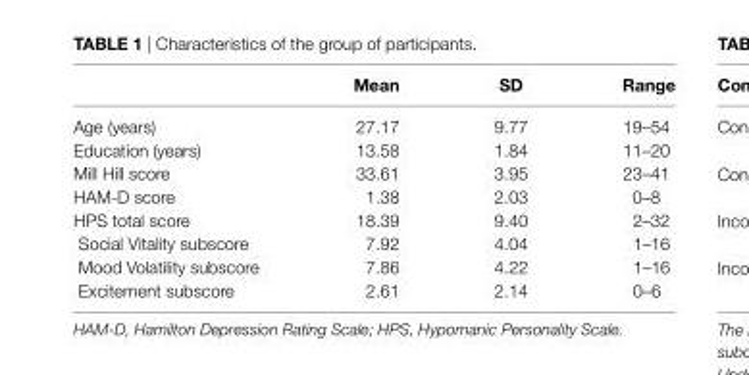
<table><thead><tr><td></td><td>Mean</td><td>sD</td><td>range</td></tr></thead><tbody><tr><td>Age (years)</td><td>27.17</td><td>9.77</td><td>19–54</td></tr><tr><td>Education (years)</td><td>13.58</td><td>1.84</td><td>11–20</td></tr><tr><td>Mill Hill score</td><td>33.61</td><td>3.95</td><td>23–41</td></tr><tr><td>HAM-D score</td><td>1.38</td><td>2.03</td><td>0–8</td></tr><tr><td>HPS total score</td><td>18.39</td><td>9.40</td><td>2–32</td></tr><tr><td>Social Vitality subscore</td><td>7.92</td><td>4.04</td><td>1–16</td></tr><tr><td>Mood Volatility subscore</td><td>7.86</td><td>4.22</td><td>1–16</td></tr><tr><td>Excitement subscore</td><td>2.61</td><td>2.14</td><td>0–6</td></tr></tbody></table>